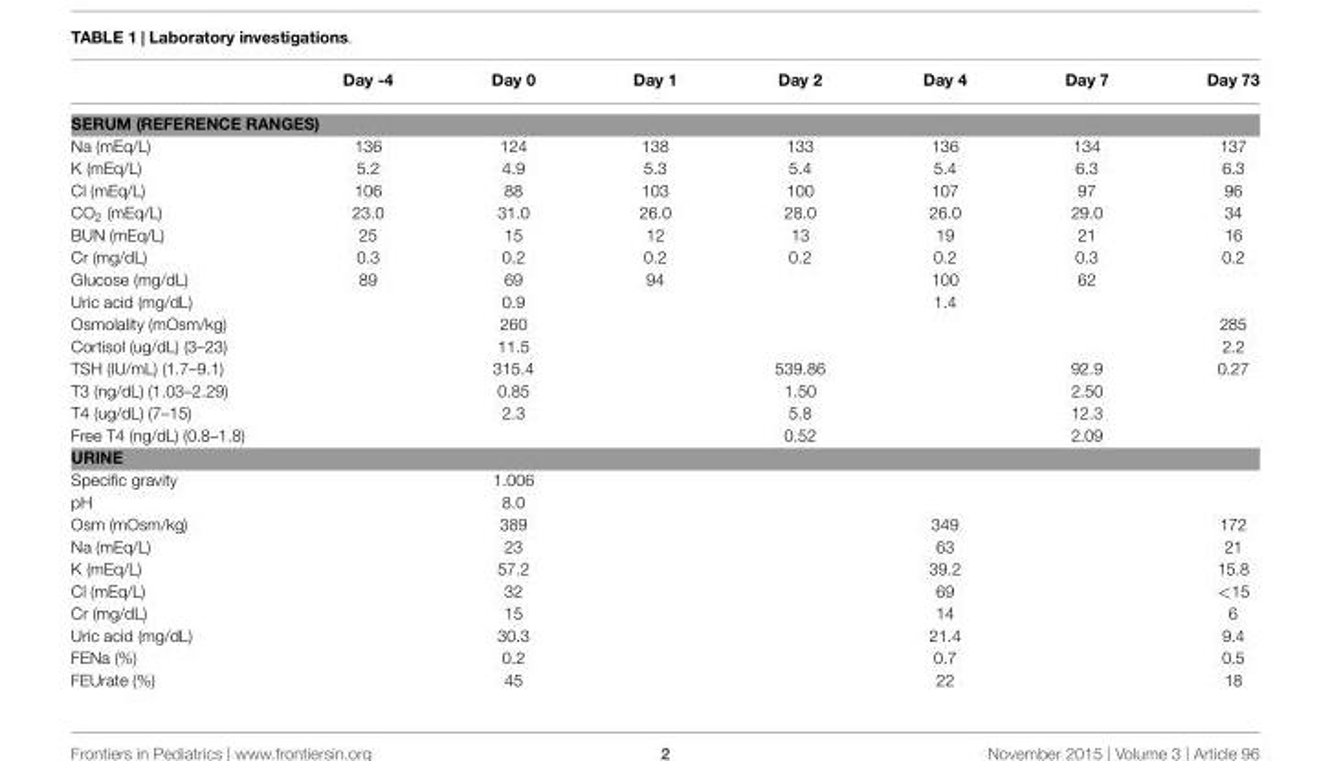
<table><thead><tr><td></td><td>Day -4</td><td>Day 0</td><td>Day 1</td><td>Day 2</td><td>Day 4</td><td>Day 7</td><td>Day 73</td></tr></thead><tbody><tr><td colspan="8">SERUM (REFERENCE RANGES)</td></tr><tr><td>Na (mEq/L)</td><td>136</td><td>124</td><td>138</td><td>133</td><td>136</td><td>134</td><td>137</td></tr><tr><td>K (mEq/L)</td><td>5.2</td><td>4.9</td><td>5.3</td><td>5.4</td><td>5.4</td><td>6.3</td><td>6.3</td></tr><tr><td>Cl (mEq/L)</td><td>106</td><td>88</td><td>103</td><td>100</td><td>107</td><td>97</td><td>96</td></tr><tr><td>CO<sub>2</sub> (mEq/L)</td><td>23.0</td><td>31.0</td><td>26.0</td><td>28.0</td><td>26.0</td><td>29.0</td><td>34</td></tr><tr><td>BUN (mEq/L)</td><td>25</td><td>15</td><td>12</td><td>13</td><td>19</td><td>21</td><td>16</td></tr><tr><td>Cr (mg/dL)</td><td>0.3</td><td>0.2</td><td>0.2</td><td>0.2</td><td>0.2</td><td>0.3</td><td>0.2</td></tr><tr><td>Glucose (mg/dL)</td><td>89</td><td>69</td><td>94</td><td></td><td>100</td><td>62</td><td></td></tr><tr><td>Uric acid (mg/dL)</td><td></td><td>0.9</td><td></td><td></td><td>1.4</td><td></td><td></td></tr><tr><td>Osmolality (mOsm/kg)</td><td></td><td>260</td><td></td><td></td><td></td><td></td><td>285</td></tr><tr><td>Cortisol (ug/dL) (3–23)</td><td></td><td>11.5</td><td></td><td></td><td></td><td></td><td>2.2</td></tr><tr><td>TSH (IU/mL) (1.7–9.1)</td><td></td><td>315.4</td><td></td><td>539.86</td><td></td><td>92.9</td><td>0.27</td></tr><tr><td>T3 (ng/dL) (1.03–2.29)</td><td></td><td>0.85</td><td></td><td>1.50</td><td></td><td>2.50</td><td></td></tr><tr><td>T4 (ug/dL) (7–15)</td><td></td><td>2.3</td><td></td><td>5.8</td><td></td><td>12.3</td><td></td></tr><tr><td>Free T4 (ng/dL) (0.8–1.8)</td><td></td><td></td><td></td><td>0.52</td><td></td><td>2.09</td><td></td></tr><tr><td colspan="8">URINE</td></tr><tr><td>Specific gravity</td><td></td><td>1.006</td><td></td><td></td><td></td><td></td><td></td></tr><tr><td>pH</td><td></td><td>8.0</td><td></td><td></td><td></td><td></td><td></td></tr><tr><td>Osm (mOsm/kg)</td><td></td><td>389</td><td></td><td></td><td>349</td><td></td><td>172</td></tr><tr><td>Na (mEq/L)</td><td></td><td>23</td><td></td><td></td><td>63</td><td></td><td>21</td></tr><tr><td>K (mEq/L)</td><td></td><td>57.2</td><td></td><td></td><td>39.2</td><td></td><td>15.8</td></tr><tr><td>Cl (mEq/L)</td><td></td><td>32</td><td></td><td></td><td>69</td><td></td><td>&lt;15</td></tr><tr><td>Cr (mg/dL)</td><td></td><td>15</td><td></td><td></td><td>14</td><td></td><td>6</td></tr><tr><td>Uric acid (mg/dL)</td><td></td><td>30.3</td><td></td><td></td><td>21.4</td><td></td><td>9.4</td></tr><tr><td>FENa (%)</td><td></td><td>0.2</td><td></td><td></td><td>0.7</td><td></td><td>0.5</td></tr><tr><td>FEUrate (%)</td><td></td><td>45</td><td></td><td></td><td>22</td><td></td><td>18</td></tr></tbody></table>